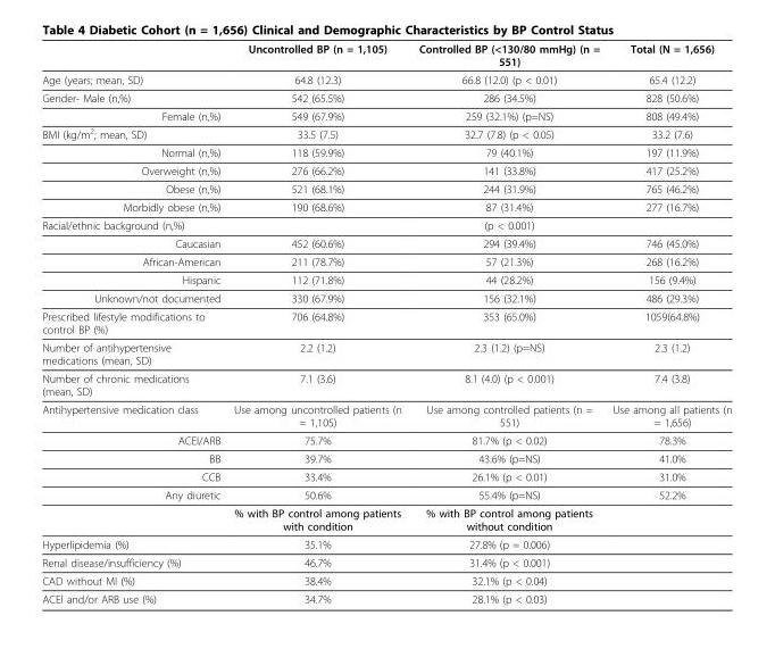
<table><thead><tr><td></td><td>Uncontrolled BP (n = 1,105)</td><td>Controlled BP (&lt;130/80 mmHg) (n = 551)</td><td>Total (N = 1,656)</td></tr></thead><tbody><tr><td>Age (years; mean, SD)</td><td>64.8 (12.3)</td><td>66.8 (12.0) (p &lt; 0.01)</td><td>65.4 (12.2)</td></tr><tr><td>Gender- Male (n,%)</td><td>542 (65.5%)</td><td>286 (34.5%)</td><td>828 (50.6%)</td></tr><tr><td>Female (n,%)</td><td>549 (67.9%)</td><td>259 (32.1%) (p=NS)</td><td>808 (49.4%)</td></tr><tr><td>BMI (kg/m<sup>2</sup>; mean, SD)</td><td>33.5 (7.5)</td><td>32.7 (7.8) (p &lt; 0.05)</td><td>33.2 (7.6)</td></tr><tr><td>Normal (n,%)</td><td>118 (59.9%)</td><td>79 (40.1%)</td><td>197 (11.9%)</td></tr><tr><td>Overweight (n,%)</td><td>276 (66.2%)</td><td>141 (33.8%)</td><td>417 (25.2%)</td></tr><tr><td>Obese (n,%)</td><td>521 (68.1%)</td><td>244 (31.9%)</td><td>765 (46.2%)</td></tr><tr><td>Morbidly obese (n,%)</td><td>190 (68.6%)</td><td>87 (31.4%)</td><td>277 (16.7%)</td></tr><tr><td>Racial/ethnic background (n,%)</td><td></td><td>(p &lt; 0.001)</td><td></td></tr><tr><td>Caucasian</td><td>452 (60.6%)</td><td>294 (39.4%)</td><td>746 (45.0%)</td></tr><tr><td>African-American</td><td>211 (78.7%)</td><td>57 (21.3%)</td><td>268 (16.2%)</td></tr><tr><td>Hispanic</td><td>112 (71.8%)</td><td>44 (28.2%)</td><td>156 (9.4%)</td></tr><tr><td>Unknown/not documented</td><td>330 (67.9%)</td><td>156 (32.1%)</td><td>486 (29.3%)</td></tr><tr><td>Prescribed lifestyle modifications to control BP (%)</td><td>706 (64.8%)</td><td>353 (65.0%)</td><td>1059(64.8%)</td></tr><tr><td>Number of antihypertensive medications (mean, SD)</td><td>2.2 (1.2)</td><td>2.3 (1.2) (p=NS)</td><td>2.3 (1.2)</td></tr><tr><td>Number of chronic medications (mean, SD)</td><td>7.1 (3.6)</td><td>8.1 (4.0) (p &lt; 0.001)</td><td>7.4 (3.8)</td></tr><tr><td>Antihypertensive medication class</td><td>Use among uncontrolled patients (n = 1,105)</td><td>Use among controlled patients (n = 551)</td><td>Use among all patients (n = 1,656)</td></tr><tr><td>ACEI/ARB</td><td>75.7%</td><td>81.7% (p &lt; 0.02)</td><td>78.3%</td></tr><tr><td>BB</td><td>39.7%</td><td>43.6% (p=NS)</td><td>41.0%</td></tr><tr><td>CCB</td><td>33.4%</td><td>26.1% (p &lt; 0.01)</td><td>31.0%</td></tr><tr><td rowspan="2">Any diuretic</td><td>50.6%</td><td>55.4% (p=NS)</td><td>52.2%</td></tr><tr><td>% with BP control among patients with condition</td><td>% with BP control among patients without condition</td><td></td></tr><tr><td>Hyperlipidemia (%)</td><td>35.1%</td><td>27.8% (p = 0.006)</td><td></td></tr><tr><td>Renal disease/insufficiency (%)</td><td>46.7%</td><td>31.4% (p &lt; 0.001)</td><td></td></tr><tr><td>CAD without MI (%)</td><td>38.4%</td><td>32.1% (p &lt; 0.04)</td><td></td></tr><tr><td>ACEI and/or ARB use (%)</td><td>34.7%</td><td>28.1% (p &lt; 0.03)</td><td></td></tr></tbody></table>